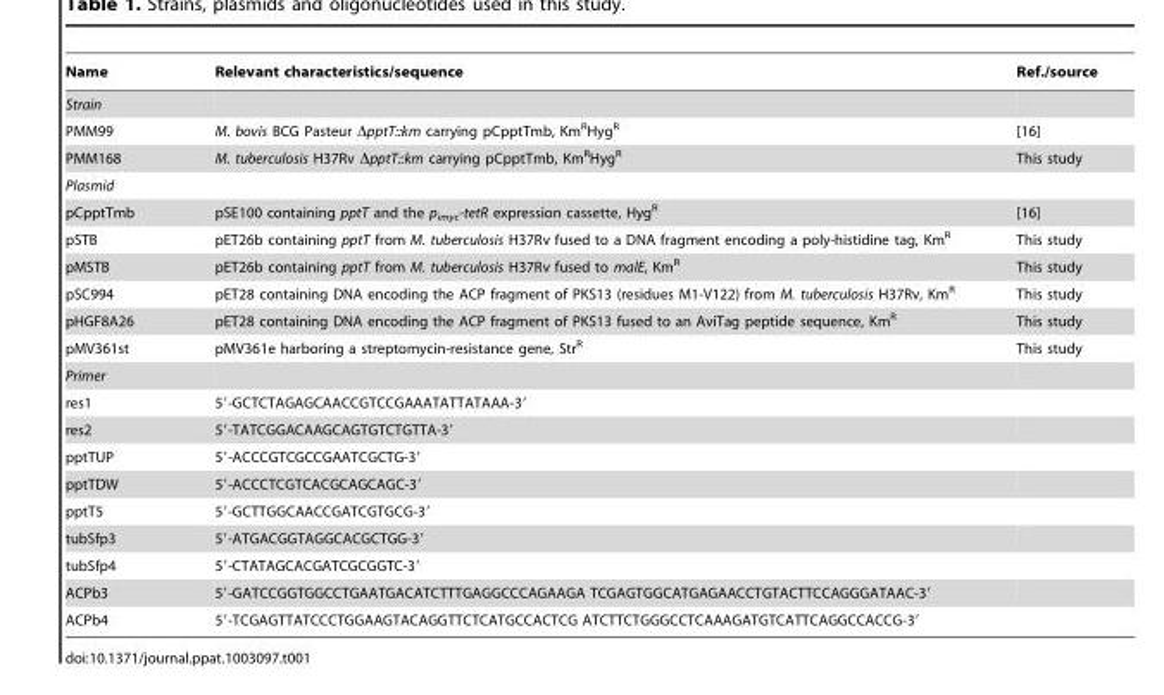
<table><thead><tr><td>Name</td><td>Relevant characteristics/sequence</td><td>Ref./source</td></tr></thead><tbody><tr><td colspan="3">Strain</td></tr><tr><td>PMM99</td><td>M. bovis BCG Pasteur ΔpptT::km carrying pCpptTmb, Km<sup>R</sup>Hyg<sup>R</sup></td><td>[16]</td></tr><tr><td>PMM168</td><td>M. tuberculosis H37Rv ΔpptT::km carrying pCpptTmb, Km<sup>R</sup>Hyg<sup>R</sup></td><td>This study</td></tr><tr><td colspan="3">Plasmid</td></tr><tr><td>pCpptTmb</td><td>pSE100 containing pptT and the p<sub>imyc</sub>-tetR expression cassette, Hyg<sup>R</sup></td><td>[16]</td></tr><tr><td>pSTB</td><td>pET26b containing pptT from M. tuberculosis H37Rv fused to a DNA fragment encoding a poly-histidine tag, Km<sup>R</sup></td><td>This study</td></tr><tr><td>pMSTB</td><td>pET26b containing pptT from M. tuberculosis H37Rv fused to malE, Km<sup>R</sup></td><td>This study</td></tr><tr><td>pSC994</td><td>pET28 containing DNA encoding the ACP fragment of PKS13 (residues M1-V122) from M. tuberculosis H37Rv, Km<sup>R</sup></td><td>This study</td></tr><tr><td>pHGF8A26</td><td>pET28 containing DNA encoding the ACP fragment of PKS13 fused to an AviTag peptide sequence, Km<sup>R</sup></td><td>This study</td></tr><tr><td>pMV361st</td><td>pMV361e harboring a streptomycin-resistance gene, Str<sup>R</sup></td><td>This study</td></tr><tr><td colspan="3">Primer</td></tr><tr><td>res1</td><td>5′-GCTCTAGAGCAACCGTCCGAAATATTATAAA-3′</td><td></td></tr><tr><td>res2</td><td>5′-TATCGGACAAGCAGTGTCTGTTA-3′</td><td></td></tr><tr><td>pptTUP</td><td>5′-ACCCGTCGCCGAATCGCTG-3′</td><td></td></tr><tr><td>pptTDW</td><td>5′-ACCCTCGTCACGCAGCAGC-3′</td><td></td></tr><tr><td>pptT5</td><td>5′-GCTTGGCAACCGATCGTGCG-3′</td><td></td></tr><tr><td>tubSfp3</td><td>5′-ATGACGGTAGGCACGCTGG-3′</td><td></td></tr><tr><td>tubSfp4</td><td>5′-CTATAGCACGATCGCGGTC-3′</td><td></td></tr><tr><td>ACPb3</td><td>5′-GATCCGGTGGCCTGAATGACATCTTTGAGGCCCAGAAGA TCGAGTGGCATGAGAACCTGTACTTCCAGGGATAAC-3′</td><td></td></tr><tr><td>ACPb4</td><td>5′-TCGAGTTATCCCTGGAAGTACAGGTTCTCATGCCACTCG ATCTTCTGGGCCTCAAAGATGTCATTCAGGCCACCG-3′</td><td></td></tr></tbody></table>